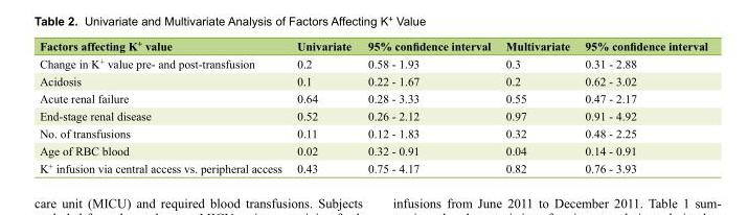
<table><thead><tr><td>Factors affecting K<sup>+</sup> value</td><td>Univariate</td><td>95% confidence interval</td><td>Multivariate</td><td>95% confidence interval</td></tr></thead><tbody><tr><td>Change in K<sup>+</sup> value pre- and post-transfusion</td><td>0.2</td><td>0.58 - 1.93</td><td>0.3</td><td>0.31 - 2.88</td></tr><tr><td>Acidosis</td><td>0.1</td><td>0.22 - 1.67</td><td>0.2</td><td>0.62 - 3.02</td></tr><tr><td>Acute renal failure</td><td>0.64</td><td>0.28 - 3.33</td><td>0.55</td><td>0.47 - 2.17</td></tr><tr><td>End-stage renal disease</td><td>0.52</td><td>0.26 - 2.12</td><td>0.97</td><td>0.91 - 4.92</td></tr><tr><td>No. of transfusions</td><td>0.11</td><td>0.12 - 1.83</td><td>0.32</td><td>0.48 - 2.25</td></tr><tr><td>Age of RBC blood</td><td>0.02</td><td>0.32 - 0.91</td><td>0.04</td><td>0.14 - 0.91</td></tr><tr><td>K<sup>+</sup> infusion via central access vs. peripheral access</td><td>0.43</td><td>0.75 - 4.17</td><td>0.82</td><td>0.76 - 3.93</td></tr></tbody></table>